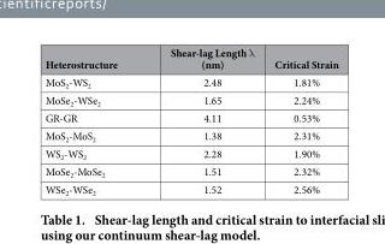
<table><thead><tr><td>Heterostructure</td><td>Shear-lag Length λ (nm)</td><td>Critical Strain</td></tr></thead><tbody><tr><td>MoS<sub>2</sub>-WS<sub>2</sub></td><td>2.48</td><td>1.81%</td></tr><tr><td>MoSe<sub>2</sub>-WSe<sub>2</sub></td><td>1.65</td><td>2.24%</td></tr><tr><td>GR-GR</td><td>4.11</td><td>0.53%</td></tr><tr><td>MoS<sub>2</sub>-MoS<sub>2</sub></td><td>1.38</td><td>2.31%</td></tr><tr><td>WS<sub>2</sub>-WS<sub>2</sub></td><td>2.28</td><td>1.90%</td></tr><tr><td>MoSe<sub>2</sub>-MoSe<sub>2</sub></td><td>1.51</td><td>2.32%</td></tr><tr><td>WSe<sub>2</sub>-WSe<sub>2</sub></td><td>1.52</td><td>2.56%</td></tr></tbody></table>